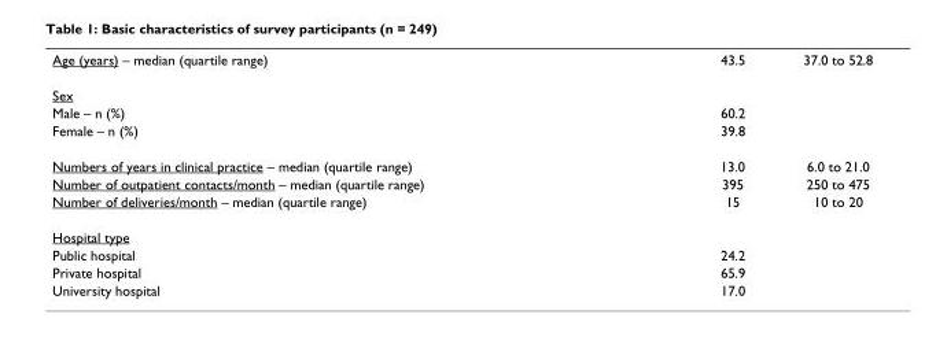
<table><tbody><tr><td>Age (years) – median (quartile range)</td><td>43.5</td><td>37.0 to 52.8</td></tr><tr><td colspan="3">Sex</td></tr><tr><td>Male – n (%)</td><td>60.2</td><td></td></tr><tr><td>Female – n (%)</td><td>39.8</td><td></td></tr><tr><td>Numbers of years in clinical practice – median (quartile range)</td><td>13.0</td><td>6.0 to 21.0</td></tr><tr><td>Number of outpatient contacts/month – median (quartile range)</td><td>395</td><td>250 to 475</td></tr><tr><td>Number of deliveries/month – median (quartile range)</td><td>15</td><td>10 to 20</td></tr><tr><td colspan="3">Hospital type</td></tr><tr><td>Public hospital</td><td>24.2</td><td></td></tr><tr><td>Private hospital</td><td>65.9</td><td></td></tr><tr><td>University hospital</td><td>17.0</td><td></td></tr></tbody></table>